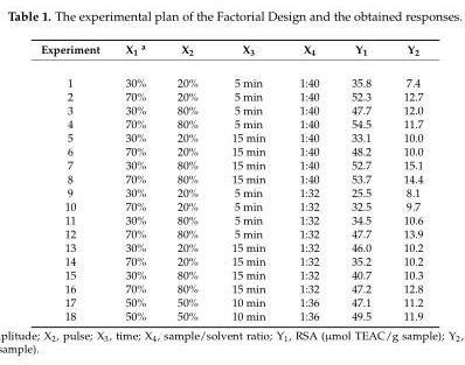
<table><thead><tr><td>Experiment</td><td>X<sub>1</sub> <sup>a</sup></td><td>X<sub>2</sub></td><td>X<sub>3</sub></td><td>X<sub>4</sub></td><td>Y<sub>1</sub></td><td>Y<sub>2</sub></td></tr></thead><tbody><tr><td>1</td><td>30%</td><td>20%</td><td>5 min</td><td>1:40</td><td>35.8</td><td>7.4</td></tr><tr><td>2</td><td>70%</td><td>20%</td><td>5 min</td><td>1:40</td><td>52.3</td><td>12.7</td></tr><tr><td>3</td><td>30%</td><td>80%</td><td>5 min</td><td>1:40</td><td>47.7</td><td>12.0</td></tr><tr><td>4</td><td>70%</td><td>80%</td><td>5 min</td><td>1:40</td><td>54.5</td><td>11.7</td></tr><tr><td>5</td><td>30%</td><td>20%</td><td>15 min</td><td>1:40</td><td>33.1</td><td>10.0</td></tr><tr><td>6</td><td>70%</td><td>20%</td><td>15 min</td><td>1:40</td><td>48.2</td><td>10.0</td></tr><tr><td>7</td><td>30%</td><td>80%</td><td>15 min</td><td>1:40</td><td>52.7</td><td>15.1</td></tr><tr><td>8</td><td>70%</td><td>80%</td><td>15 min</td><td>1:40</td><td>53.7</td><td>14.4</td></tr><tr><td>9</td><td>30%</td><td>20%</td><td>5 min</td><td>1:32</td><td>25.5</td><td>8.1</td></tr><tr><td>10</td><td>70%</td><td>20%</td><td>5 min</td><td>1:32</td><td>32.5</td><td>9.7</td></tr><tr><td>11</td><td>30%</td><td>80%</td><td>5 min</td><td>1:32</td><td>34.5</td><td>10.6</td></tr><tr><td>12</td><td>70%</td><td>80%</td><td>5 min</td><td>1:32</td><td>47.7</td><td>13.9</td></tr><tr><td>13</td><td>30%</td><td>20%</td><td>15 min</td><td>1:32</td><td>46.0</td><td>10.2</td></tr><tr><td>14</td><td>70%</td><td>20%</td><td>15 min</td><td>1:32</td><td>35.2</td><td>10.2</td></tr><tr><td>15</td><td>30%</td><td>80%</td><td>15 min</td><td>1:32</td><td>40.7</td><td>10.3</td></tr><tr><td>16</td><td>70%</td><td>80%</td><td>15 min</td><td>1:32</td><td>47.2</td><td>12.8</td></tr><tr><td>17</td><td>50%</td><td>50%</td><td>10 min</td><td>1:36</td><td>47.1</td><td>11.2</td></tr><tr><td>18</td><td>50%</td><td>50%</td><td>10 min</td><td>1:36</td><td>49.5</td><td>11.9</td></tr></tbody></table>